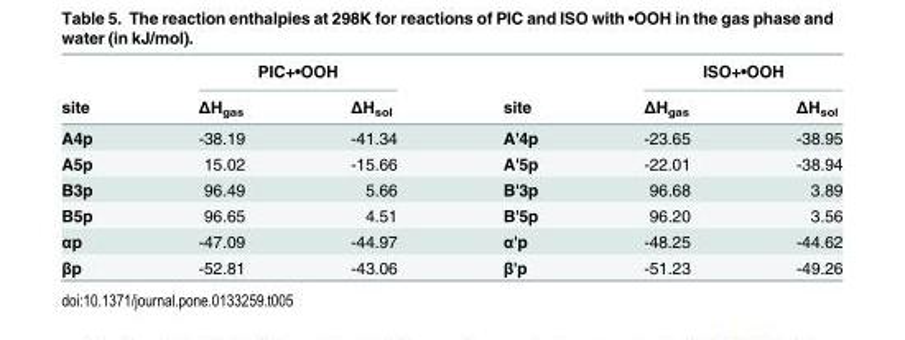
<table><thead><tr><td rowspan="2">site</td><td colspan="2">PIC+•OOH</td><td rowspan="2">site</td><td colspan="2">ISO+•OOH</td></tr><tr><td>ΔH<sub>gas</sub></td><td>ΔH<sub>sol</sub></td><td>ΔH<sub>gas</sub></td><td>ΔH<sub>sol</sub></td></tr></thead><tbody><tr><td>A4p</td><td>-38.19</td><td>-41.34</td><td>A&#x27;4p</td><td>-23.65</td><td>-38.95</td></tr><tr><td>A5p</td><td>15.02</td><td>-15.66</td><td>A&#x27;5p</td><td>-22.01</td><td>-38.94</td></tr><tr><td>B3p</td><td>96.49</td><td>5.66</td><td>B&#x27;3p</td><td>96.68</td><td>3.89</td></tr><tr><td>B5p</td><td>96.65</td><td>4.51</td><td>B&#x27;5p</td><td>96.20</td><td>3.56</td></tr><tr><td>αp</td><td>-47.09</td><td>-44.97</td><td>α&#x27;p</td><td>-48.25</td><td>-44.62</td></tr><tr><td>βp</td><td>-52.81</td><td>-43.06</td><td>β&#x27;p</td><td>-51.23</td><td>-49.26</td></tr></tbody></table>